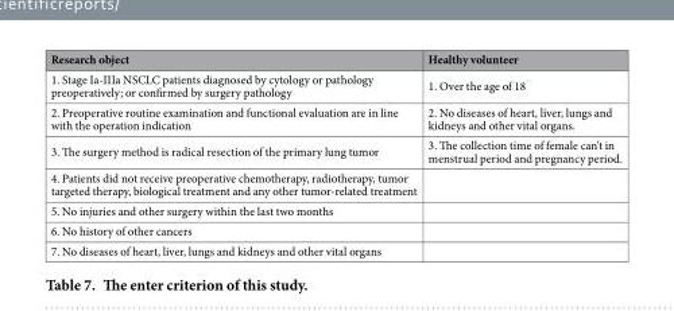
<table><thead><tr><td>Research object</td><td>Healthy volunteer</td></tr></thead><tbody><tr><td>1. Stage Ia-IIIa NSCLC patients diagnosed by cytology or pathology preoperatively; or confirmed by surgery pathology</td><td>1. Over the age of 18</td></tr><tr><td>2. Preoperative routine examination and functional evaluation are in line with the operation indication</td><td>2. No diseases of heart, liver, lungs and kidneys and other vital organs.</td></tr><tr><td>3. The surgery method is radical resection of the primary lung tumor</td><td>3. The collection time of female can’t in menstrual period and pregnancy period.</td></tr><tr><td colspan="2">4. Patients did not receive preoperative chemotherapy, radiotherapy, tumor targeted therapy, biological treatment and any other tumor-related treatment</td></tr><tr><td colspan="2">5. No injuries and other surgery within the last two months</td></tr><tr><td colspan="2">6. No history of other cancers</td></tr><tr><td>7. No diseases of heart, liver, lungs and kidneys and other vital organs</td><td></td></tr></tbody></table>